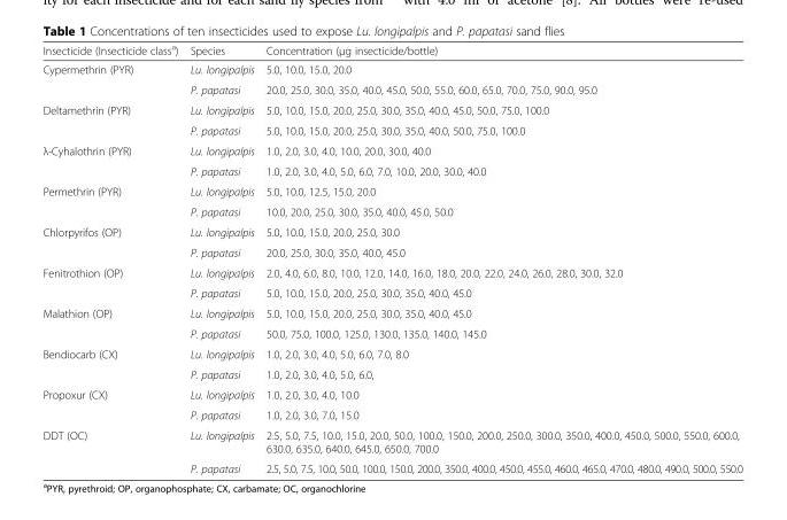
<table><thead><tr><td>Insecticide (Insecticide class<sup>a</sup>)</td><td>Species</td><td>Concentration (μg insecticide/bottle)</td></tr></thead><tbody><tr><td rowspan="2">Cypermethrin (PYR)</td><td>Lu. longipalpis</td><td>5.0, 10.0, 15.0, 20.0</td></tr><tr><td>P. papatasi</td><td>20.0, 25.0, 30.0, 35.0, 40.0, 45.0, 50.0, 55.0, 60.0, 65.0, 70.0, 75.0, 90.0, 95.0</td></tr><tr><td rowspan="2">Deltamethrin (PYR)</td><td>Lu. longipalpis</td><td>5.0, 10.0, 15.0, 20.0, 25.0, 30.0, 35.0, 40.0, 45.0, 50.0, 75.0, 100.0</td></tr><tr><td>P. papatasi</td><td>5.0, 10.0, 15.0, 20.0, 25.0, 30.0, 35.0, 40.0, 50.0, 75.0, 100.0</td></tr><tr><td rowspan="2">λ-Cyhalothrin (PYR)</td><td>Lu. longipalpis</td><td>1.0, 2.0, 3.0, 4.0, 10.0, 20.0, 30.0, 40.0</td></tr><tr><td>P. papatasi</td><td>1.0, 2.0, 3.0, 4.0, 5.0, 6.0, 7.0, 10.0, 20.0, 30.0, 40.0</td></tr><tr><td rowspan="2">Permethrin (PYR)</td><td>Lu. longipalpis</td><td>5.0, 10.0, 12.5, 15.0, 20.0</td></tr><tr><td>P. papatasi</td><td>10.0, 20.0, 25.0, 30.0, 35.0, 40.0, 45.0, 50.0</td></tr><tr><td rowspan="2">Chlorpyrifos (OP)</td><td>Lu. longipalpis</td><td>5.0, 10.0, 15.0, 20.0, 25.0, 30.0</td></tr><tr><td>P. papatasi</td><td>20.0, 25.0, 30.0, 35.0, 40.0, 45.0</td></tr><tr><td rowspan="2">Fenitrothion (OP)</td><td>Lu. longipalpis</td><td>2.0, 4.0, 6.0, 8.0, 10.0, 12.0, 14.0, 16.0, 18.0, 20.0, 22.0, 24.0, 26.0, 28.0, 30.0, 32.0</td></tr><tr><td>P. papatasi</td><td>5.0, 10.0, 15.0, 20.0, 25.0, 30.0, 35.0, 40.0, 45.0</td></tr><tr><td rowspan="2">Malathion (OP)</td><td>Lu. longipalpis</td><td>5.0, 10.0, 15.0, 20.0, 25.0, 30.0, 35.0, 40.0, 45.0</td></tr><tr><td>P. papatasi</td><td>50.0, 75.0, 100.0, 125.0, 130.0, 135.0, 140.0, 145.0</td></tr><tr><td rowspan="2">Bendiocarb (CX)</td><td>Lu. longipalpis</td><td>1.0, 2.0, 3.0, 4.0, 5.0, 6.0, 7.0, 8.0</td></tr><tr><td>P. papatasi</td><td>1.0, 2.0, 3.0, 4.0, 5.0, 6.0,</td></tr><tr><td rowspan="2">Propoxur (CX)</td><td>Lu. longipalpis</td><td>1.0, 2.0, 3.0, 4.0, 10.0</td></tr><tr><td>P. papatasi</td><td>1.0, 2.0, 3.0, 7.0, 15.0</td></tr><tr><td rowspan="2">DDT (OC)</td><td>Lu. longipalpis</td><td>2.5, 5.0, 7.5, 10.0, 15.0, 20.0, 50.0, 100.0, 150.0, 200.0, 250.0, 300.0, 350.0, 400.0, 450.0, 500.0, 550.0, 600.0, 630.0, 635.0, 640.0, 645.0, 650.0, 700.0</td></tr><tr><td>P. papatasi</td><td>2.5, 5.0, 7.5, 10.0, 50.0, 100.0, 150.0, 200.0, 350.0, 400.0, 450.0, 455.0, 460.0, 465.0, 470.0, 480.0, 490.0, 500.0, 550.0</td></tr></tbody></table>